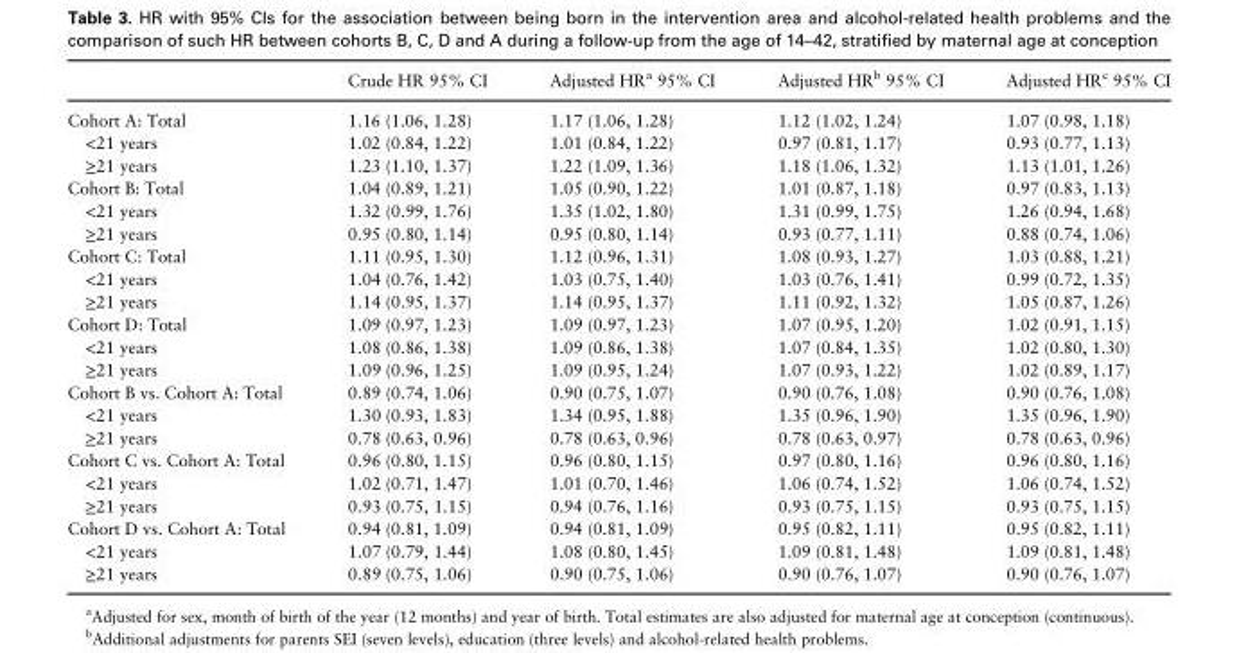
<table><thead><tr><td></td><td>Crude HR 95% CI</td><td>Adjusted HR<sup>a</sup> 95% CI</td><td>Adjusted HR<sup>b</sup> 95% CI</td><td>Adjusted HR<sup>c</sup> 95% CI</td></tr></thead><tbody><tr><td>Cohort A: Total</td><td>1.16 (1.06, 1.28)</td><td>1.17 (1.06, 1.28)</td><td>1.12 (1.02, 1.24)</td><td>1.07 (0.98, 1.18)</td></tr><tr><td>&lt;21 years</td><td>1.02 (0.84, 1.22)</td><td>1.01 (0.84, 1.22)</td><td>0.97 (0.81, 1.17)</td><td>0.93 (0.77, 1.13)</td></tr><tr><td>≥21 years</td><td>1.23 (1.10, 1.37)</td><td>1.22 (1.09, 1.36)</td><td>1.18 (1.06, 1.32)</td><td>1.13 (1.01, 1.26)</td></tr><tr><td>Cohort B: Total</td><td>1.04 (0.89, 1.21)</td><td>1.05 (0.90, 1.22)</td><td>1.01 (0.87, 1.18)</td><td>0.97 (0.83, 1.13)</td></tr><tr><td>&lt;21 years</td><td>1.32 (0.99, 1.76)</td><td>1.35 (1.02, 1.80)</td><td>1.31 (0.99, 1.75)</td><td>1.26 (0.94, 1.68)</td></tr><tr><td>≥21 years</td><td>0.95 (0.80, 1.14)</td><td>0.95 (0.80, 1.14)</td><td>0.93 (0.77, 1.11)</td><td>0.88 (0.74, 1.06)</td></tr><tr><td>Cohort C: Total</td><td>1.11 (0.95, 1.30)</td><td>1.12 (0.96, 1.31)</td><td>1.08 (0.93, 1.27)</td><td>1.03 (0.88, 1.21)</td></tr><tr><td>&lt;21 years</td><td>1.04 (0.76, 1.42)</td><td>1.03 (0.75, 1.40)</td><td>1.03 (0.76, 1.41)</td><td>0.99 (0.72, 1.35)</td></tr><tr><td>≥21 years</td><td>1.14 (0.95, 1.37)</td><td>1.14 (0.95, 1.37)</td><td>1.11 (0.92, 1.32)</td><td>1.05 (0.87, 1.26)</td></tr><tr><td>Cohort D: Total</td><td>1.09 (0.97, 1.23)</td><td>1.09 (0.97, 1.23)</td><td>1.07 (0.95, 1.20)</td><td>1.02 (0.91, 1.15)</td></tr><tr><td>&lt;21 years</td><td>1.08 (0.86, 1.38)</td><td>1.09 (0.86, 1.38)</td><td>1.07 (0.84, 1.35)</td><td>1.02 (0.80, 1.30)</td></tr><tr><td>≥21 years</td><td>1.09 (0.96, 1.25)</td><td>1.09 (0.95, 1.24)</td><td>1.07 (0.93, 1.22)</td><td>1.02 (0.89, 1.17)</td></tr><tr><td>Cohort B vs. Cohort A: Total</td><td>0.89 (0.74, 1.06)</td><td>0.90 (0.75, 1.07)</td><td>0.90 (0.76, 1.08)</td><td>0.90 (0.76, 1.08)</td></tr><tr><td>&lt;21 years</td><td>1.30 (0.93, 1.83)</td><td>1.34 (0.95, 1.88)</td><td>1.35 (0.96, 1.90)</td><td>1.35 (0.96, 1.90)</td></tr><tr><td>≥21 years</td><td>0.78 (0.63, 0.96)</td><td>0.78 (0.63, 0.96)</td><td>0.78 (0.63, 0.97)</td><td>0.78 (0.63, 0.96)</td></tr><tr><td>Cohort C vs. Cohort A: Total</td><td>0.96 (0.80, 1.15)</td><td>0.96 (0.80, 1.15)</td><td>0.97 (0.80, 1.16)</td><td>0.96 (0.80, 1.16)</td></tr><tr><td>&lt;21 years</td><td>1.02 (0.71, 1.47)</td><td>1.01 (0.70, 1.46)</td><td>1.06 (0.74, 1.52)</td><td>1.06 (0.74, 1.52)</td></tr><tr><td>≥21 years</td><td>0.93 (0.75, 1.15)</td><td>0.94 (0.76, 1.16)</td><td>0.93 (0.75, 1.15)</td><td>0.93 (0.75, 1.15)</td></tr><tr><td>Cohort D vs. Cohort A: Total</td><td>0.94 (0.81, 1.09)</td><td>0.94 (0.81, 1.09)</td><td>0.95 (0.82, 1.11)</td><td>0.95 (0.82, 1.11)</td></tr><tr><td>&lt;21 years</td><td>1.07 (0.79, 1.44)</td><td>1.08 (0.80, 1.45)</td><td>1.09 (0.81, 1.48)</td><td>1.09 (0.81, 1.48)</td></tr><tr><td>≥21 years</td><td>0.89 (0.75, 1.06)</td><td>0.90 (0.75, 1.06)</td><td>0.90 (0.76, 1.07)</td><td>0.90 (0.76, 1.07)</td></tr></tbody></table>